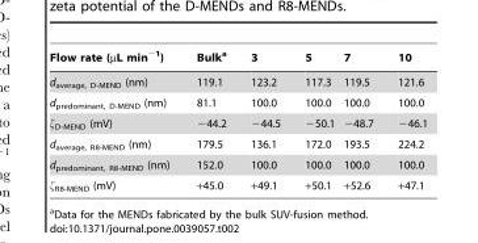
<table><thead><tr><td>Flow rate (µL min<sup>−1</sup>)</td><td>Bulk<sup>a</sup></td><td>3</td><td>5</td><td>7</td><td>10</td></tr></thead><tbody><tr><td>d<sub>average, D-MEND</sub> (nm)</td><td>119.1</td><td>123.2</td><td>117.3</td><td>119.5</td><td>121.6</td></tr><tr><td>d<sub>predominant, D-MEND</sub> (nm)</td><td>81.1</td><td>100.0</td><td>100.0</td><td>100.0</td><td>100.0</td></tr><tr><td>ζ<sub>D-MEND</sub> (mV)</td><td>−44.2</td><td>−44.5</td><td>−50.1</td><td>−48.7</td><td>−46.1</td></tr><tr><td>d<sub>average, R8-MEND</sub> (nm)</td><td>179.5</td><td>136.1</td><td>172.0</td><td>193.5</td><td>224.2</td></tr><tr><td>d<sub>predominant, R8-MEND</sub> (nm)</td><td>152.0</td><td>100.0</td><td>100.0</td><td>100.0</td><td>100.0</td></tr><tr><td>ζ<sub>R8-MEND</sub> (mV)</td><td>+45.0</td><td>+49.1</td><td>+50.1</td><td>+52.6</td><td>+47.1</td></tr></tbody></table>